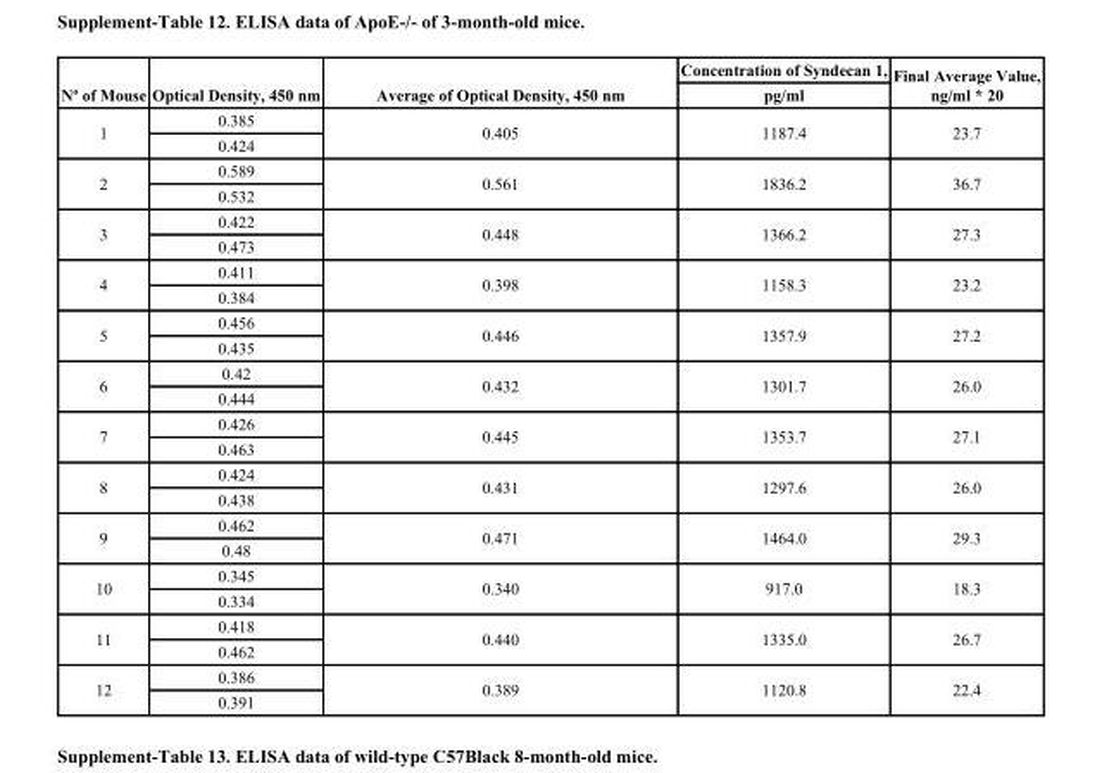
<table><thead><tr><td rowspan="2">Nº of Mouse</td><td rowspan="2">Optical Density, 450 nm</td><td rowspan="2">Average of Optical Density, 450 nm</td><td rowspan="2">Concentration of Syndecan 1, pg/ml</td><td rowspan="2">Final Average Value, ng/ml * 20</td></tr><tr></tr></thead><tbody><tr><td rowspan="2">1</td><td>0.385</td><td rowspan="2">0.405</td><td rowspan="2">1187.4</td><td rowspan="2">23.7</td></tr><tr><td>0.424</td></tr><tr><td rowspan="2">2</td><td>0.589</td><td rowspan="2">0.561</td><td rowspan="2">1836.2</td><td rowspan="2">36.7</td></tr><tr><td>0.532</td></tr><tr><td rowspan="2">3</td><td>0.422</td><td rowspan="2">0.448</td><td rowspan="2">1366.2</td><td rowspan="2">27.3</td></tr><tr><td>0.473</td></tr><tr><td rowspan="2">4</td><td>0.411</td><td rowspan="2">0.398</td><td rowspan="2">1158.3</td><td rowspan="2">23.2</td></tr><tr><td>0.384</td></tr><tr><td rowspan="2">5</td><td>0.456</td><td rowspan="2">0.446</td><td rowspan="2">1357.9</td><td rowspan="2">27.2</td></tr><tr><td>0.435</td></tr><tr><td rowspan="2">6</td><td>0.42</td><td rowspan="2">0.432</td><td rowspan="2">1301.7</td><td rowspan="2">26.0</td></tr><tr><td>0.444</td></tr><tr><td rowspan="2">7</td><td>0.426</td><td rowspan="2">0.445</td><td rowspan="2">1353.7</td><td rowspan="2">27.1</td></tr><tr><td>0.463</td></tr><tr><td rowspan="2">8</td><td>0.424</td><td rowspan="2">0.431</td><td rowspan="2">1297.6</td><td rowspan="2">26.0</td></tr><tr><td>0.438</td></tr><tr><td rowspan="2">9</td><td>0.462</td><td rowspan="2">0.471</td><td rowspan="2">1464.0</td><td rowspan="2">29.3</td></tr><tr><td>0.48</td></tr><tr><td rowspan="2">10</td><td>0.345</td><td rowspan="2">0.340</td><td rowspan="2">917.0</td><td rowspan="2">18.3</td></tr><tr><td>0.334</td></tr><tr><td rowspan="2">11</td><td>0.418</td><td rowspan="2">0.440</td><td rowspan="2">1335.0</td><td rowspan="2">26.7</td></tr><tr><td>0.462</td></tr><tr><td rowspan="2">12</td><td>0.386</td><td rowspan="2">0.389</td><td rowspan="2">1120.8</td><td rowspan="2">22.4</td></tr><tr><td>0.391</td></tr></tbody></table>